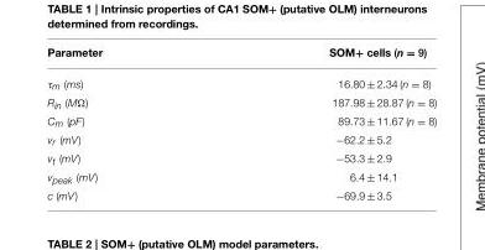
<table><thead><tr><td>Parameter</td><td>SOM+ cells (n = 9)</td></tr></thead><tbody><tr><td>τ<sub>m</sub> (ms)</td><td>16.80 ± 2.34 (n = 8)</td></tr><tr><td>R<sub>in</sub> (MΩ)</td><td>187.98 ± 28.87 (n = 8)</td></tr><tr><td>C<sub>m</sub> (pF)</td><td>89.73 ± 11.67 (n = 8)</td></tr><tr><td>v<sub>r</sub> (mV)</td><td>−62.2 ± 5.2</td></tr><tr><td>v<sub>t</sub> (mV)</td><td>−53.3 ± 2.9</td></tr><tr><td>v<sub>peak</sub> (mV)</td><td>6.4 ± 14.1</td></tr><tr><td>c (mV)</td><td>−69.9 ± 3.5</td></tr></tbody></table>